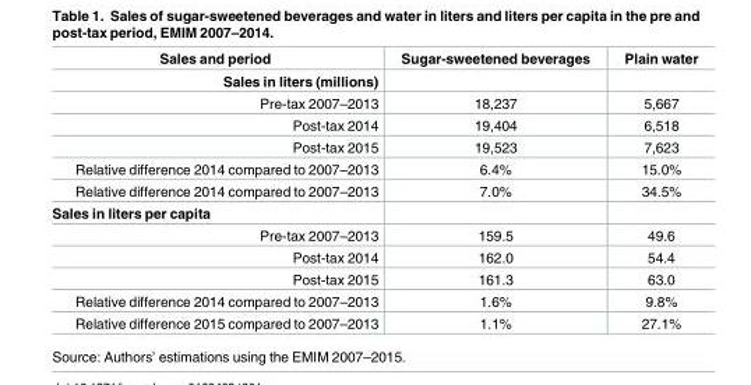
<table><thead><tr><td>Sales and period</td><td>Sugar-sweetened beverages</td><td>Plain water</td></tr></thead><tbody><tr><td colspan="3">Sales in liters (millions)</td></tr><tr><td>Pre-tax 2007–2013</td><td>18,237</td><td>5,667</td></tr><tr><td>Post-tax 2014</td><td>19,404</td><td>6,518</td></tr><tr><td>Post-tax 2015</td><td>19,523</td><td>7,623</td></tr><tr><td>Relative difference 2014 compared to 2007–2013</td><td>6.4%</td><td>15.0%</td></tr><tr><td>Relative difference 2014 compared to 2007–2013</td><td>7.0%</td><td>34.5%</td></tr><tr><td colspan="3">Sales in liters per capita</td></tr><tr><td>Pre-tax 2007–2013</td><td>159.5</td><td>49.6</td></tr><tr><td>Post-tax 2014</td><td>162.0</td><td>54.4</td></tr><tr><td>Post-tax 2015</td><td>161.3</td><td>63.0</td></tr><tr><td>Relative difference 2014 compared to 2007–2013</td><td>1.6%</td><td>9.8%</td></tr><tr><td>Relative difference 2015 compared to 2007–2013</td><td>1.1%</td><td>27.1%</td></tr></tbody></table>